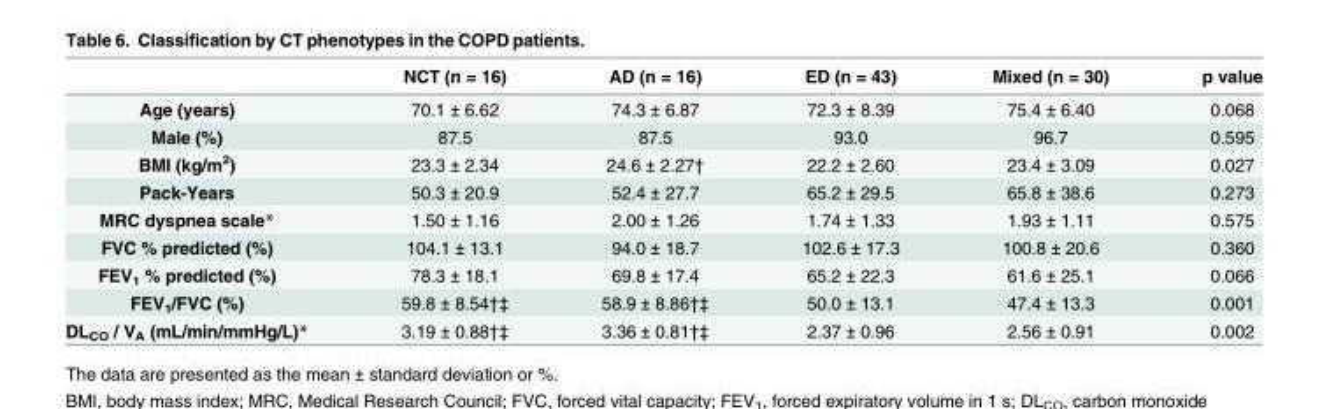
<table><thead><tr><td></td><td>NCT (n = 16)</td><td>AD (n = 16)</td><td>ED (n = 43)</td><td>Mixed (n = 30)</td><td>p value</td></tr></thead><tbody><tr><td>Age (years)</td><td>70.1 ± 6.62</td><td>74.3 ± 6.87</td><td>72.3 ± 8.39</td><td>75.4 ± 6.40</td><td>0.068</td></tr><tr><td>Male (%)</td><td>87.5</td><td>87.5</td><td>93.0</td><td>96.7</td><td>0.595</td></tr><tr><td>BMI (kg/m<sup>2</sup>)</td><td>23.3 ± 2.34</td><td>24.6 ± 2.27†</td><td>22.2 ± 2.60</td><td>23.4 ± 3.09</td><td>0.027</td></tr><tr><td>Pack-Years</td><td>50.3 ± 20.9</td><td>52.4 ± 27.7</td><td>65.2 ± 29.5</td><td>65.8 ± 38.6</td><td>0.273</td></tr><tr><td>MRC dyspnea scale*</td><td>1.50 ± 1.16</td><td>2.00 ± 1.26</td><td>1.74 ± 1.33</td><td>1.93 ± 1.11</td><td>0.575</td></tr><tr><td>FVC % predicted (%)</td><td>104.1 ± 13.1</td><td>94.0 ± 18.7</td><td>102.6 ± 17.3</td><td>100.8 ± 20.6</td><td>0.360</td></tr><tr><td>FEV<sub>1</sub> % predicted (%)</td><td>78.3 ± 18.1</td><td>69.8 ± 17.4</td><td>65.2 ± 22.3</td><td>61.6 ± 25.1</td><td>0.066</td></tr><tr><td>FEV<sub>1</sub>/FVC (%)</td><td>59.8 ± 8.54†‡</td><td>58.9 ± 8.86†‡</td><td>50.0 ± 13.1</td><td>47.4 ± 13.3</td><td>0.001</td></tr><tr><td>DL<sub>CO</sub> / V<sub>A</sub> (mL/min/mmHg/L)*</td><td>3.19 ± 0.88†‡</td><td>3.36 ± 0.81†‡</td><td>2.37 ± 0.96</td><td>2.56 ± 0.91</td><td>0.002</td></tr></tbody></table>